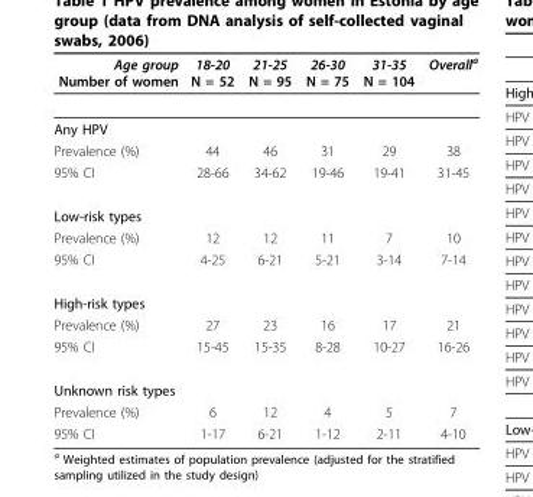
<table><thead><tr><td>Age group Number of women</td><td>18-20 N = 52</td><td>21-25 N = 95</td><td>26-30 N = 75</td><td>31-35 N = 104</td><td>Overall<sup>a</sup></td></tr></thead><tbody><tr><td colspan="6">Any HPV</td></tr><tr><td>Prevalence (%)</td><td>44</td><td>46</td><td>31</td><td>29</td><td>38</td></tr><tr><td>95% CI</td><td>28-66</td><td>34-62</td><td>19-46</td><td>19-41</td><td>31-45</td></tr><tr><td colspan="6">Low-risk types</td></tr><tr><td>Prevalence (%)</td><td>12</td><td>12</td><td>11</td><td>7</td><td>10</td></tr><tr><td>95% CI</td><td>4-25</td><td>6-21</td><td>5-21</td><td>3-14</td><td>7-14</td></tr><tr><td colspan="6">High-risk types</td></tr><tr><td>Prevalence (%)</td><td>27</td><td>23</td><td>16</td><td>17</td><td>21</td></tr><tr><td>95% CI</td><td>15-45</td><td>15-35</td><td>8-28</td><td>10-27</td><td>16-26</td></tr><tr><td colspan="6">Unknown risk types</td></tr><tr><td>Prevalence (%)</td><td>6</td><td>12</td><td>4</td><td>5</td><td>7</td></tr><tr><td>95% CI</td><td>1-17</td><td>6-21</td><td>1-12</td><td>2-11</td><td>4-10</td></tr></tbody></table>